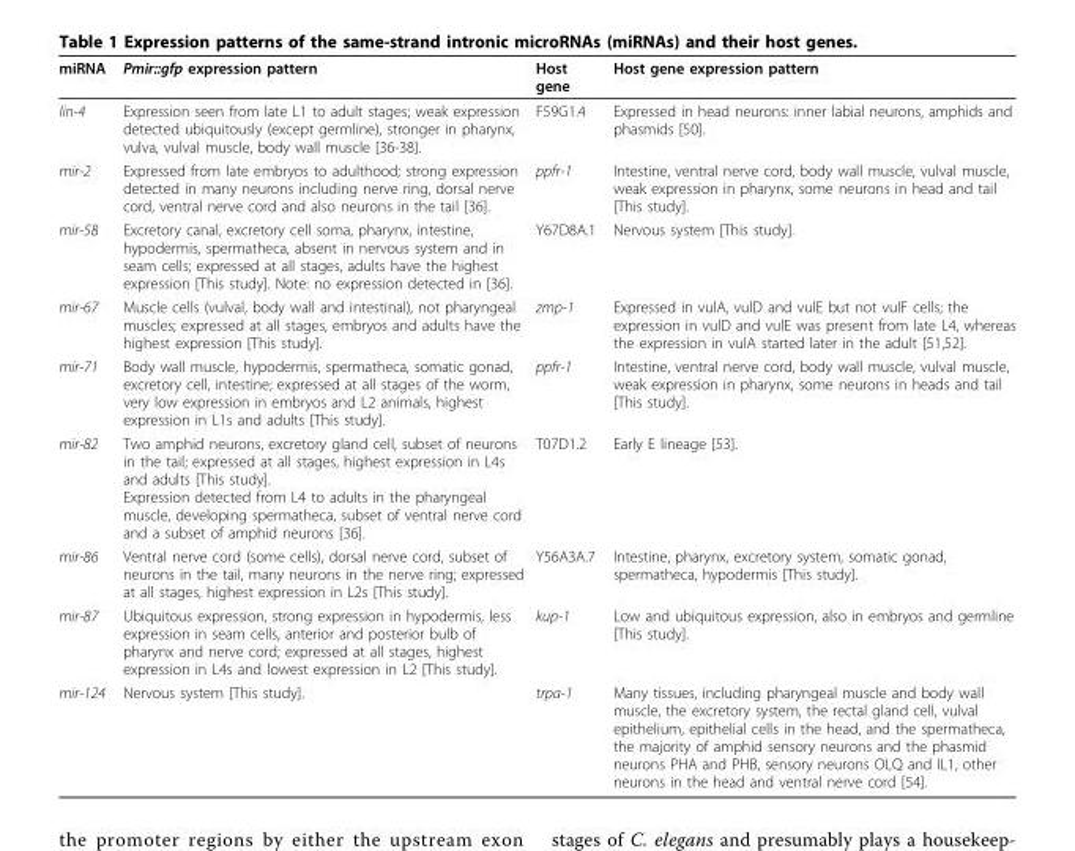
<table><thead><tr><td>miRNA</td><td>Pmir::gfp expression pattern</td><td>Host gene</td><td>Host gene expression pattern</td></tr></thead><tbody><tr><td>lin-4</td><td>Expression seen from late L1 to adult stages; weak expression detected ubiquitously (except germline), stronger in pharynx, vulva, vulval muscle, body wall muscle [36-38].</td><td>F59G1.4</td><td>Expressed in head neurons: inner labial neurons, amphids and phasmids [50].</td></tr><tr><td>mir-2</td><td>Expressed from late embryos to adulthood; strong expression detected in many neurons including nerve ring, dorsal nerve cord, ventral nerve cord and also neurons in the tail [36].</td><td>ppfr-1</td><td>Intestine, ventral nerve cord, body wall muscle, vulval muscle, weak expression in pharynx, some neurons in head and tail [This study].</td></tr><tr><td>mir-58</td><td>Excretory canal, excretory cell soma, pharynx, intestine, hypodermis, spermatheca, absent in nervous system and in seam cells; expressed at all stages, adults have the highest expression [This study]. Note: no expression detected in [36].</td><td>Y67D8A.1</td><td>Nervous system [This study].</td></tr><tr><td>mir-67</td><td>Muscle cells (vulval, body wall and intestinal), not pharyngeal muscles; expressed at all stages, embryos and adults have the highest expression [This study].</td><td>zmp-1</td><td>Expressed in vulA, vulD and vulE but not vulF cells; the expression in vulD and vulE was present from late L4, whereas the expression in vulA started later in the adult [51,52].</td></tr><tr><td>mir-71</td><td>Body wall muscle, hypodermis, spermatheca, somatic gonad, excretory cell, intestine; expressed at all stages of the worm, very low expression in embryos and L2 animals, highest expression in L1s and adults [This study].</td><td>ppfr-1</td><td>Intestine, ventral nerve cord, body wall muscle, vulval muscle, weak expression in pharynx, some neurons in heads and tail [This study].</td></tr><tr><td>mir-82</td><td>Two amphid neurons, excretory gland cell, subset of neurons in the tail; expressed at all stages, highest expression in L4s and adults [This study]. Expression detected from L4 to adults in the pharyngeal muscle, developing spermatheca, subset of ventral nerve cord and a subset of amphid neurons [36].</td><td>T07D1.2</td><td>Early E lineage [53].</td></tr><tr><td>mir-86</td><td>Ventral nerve cord (some cells), dorsal nerve cord, subset of neurons in the tail, many neurons in the nerve ring; expressed at all stages, highest expression in L2s [This study].</td><td>Y56A3A.7</td><td>Intestine, pharynx, excretory system, somatic gonad, spermatheca, hypodermis [This study].</td></tr><tr><td>mir-87</td><td>Ubiquitous expression, strong expression in hypodermis, less expression in seam cells, anterior and posterior bulb of pharynx and nerve cord; expressed at all stages, highest expression in L4s and lowest expression in L2 [This study].</td><td>kup-1</td><td>Low and ubiquitous expression, also in embryos and germline [This study].</td></tr><tr><td>mir-124</td><td>Nervous system [This study].</td><td>trpa-1</td><td>Many tissues, including pharyngeal muscle and body wall muscle, the excretory system, the rectal gland cell, vulval epithelium, epithelial cells in the head, and the spermatheca, the majority of amphid sensory neurons and the phasmid neurons PHA and PHB, sensory neurons OLQ and IL1, other neurons in the head and ventral nerve cord [54].</td></tr></tbody></table>